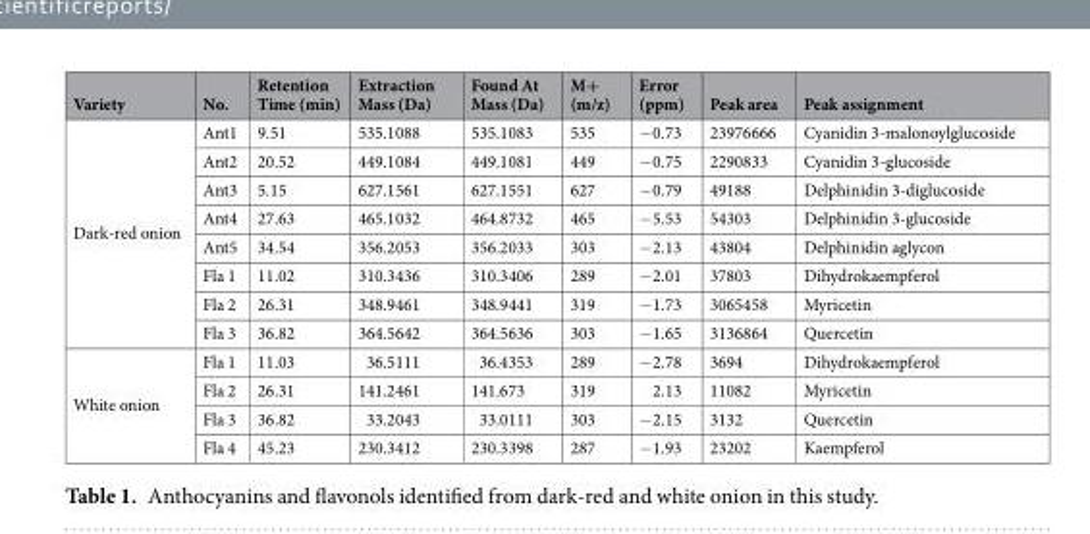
<table><thead><tr><td>Variety</td><td>No.</td><td>Retention Time (min)</td><td>Extraction Mass (Da)</td><td>Found At Mass (Da)</td><td>M+ (m/z)</td><td>Error (ppm)</td><td>Peak area</td><td>Peak assignment</td></tr></thead><tbody><tr><td rowspan="8">Dark-red onion</td><td>Ant1</td><td>9.51</td><td>535.1088</td><td>535.1083</td><td>535</td><td>−0.73</td><td>23976666</td><td>Cyanidin 3-malonoylglucoside</td></tr><tr><td>Ant2</td><td>20.52</td><td>449.1084</td><td>449.1081</td><td>449</td><td>−0.75</td><td>2290833</td><td>Cyanidin 3-glucoside</td></tr><tr><td>Ant3</td><td>5.15</td><td>627.1561</td><td>627.1551</td><td>627</td><td>−0.79</td><td>49188</td><td>Delphinidin 3-diglucoside</td></tr><tr><td>Ant4</td><td>27.63</td><td>465.1032</td><td>464.8732</td><td>465</td><td>−5.53</td><td>54303</td><td>Delphinidin 3-glucoside</td></tr><tr><td>Ant5</td><td>34.54</td><td>356.2053</td><td>356.2033</td><td>303</td><td>−2.13</td><td>43804</td><td>Delphinidin aglycon</td></tr><tr><td>Fla 1</td><td>11.02</td><td>310.3436</td><td>310.3406</td><td>289</td><td>−2.01</td><td>37803</td><td>Dihydrokaempferol</td></tr><tr><td>Fla 2</td><td>26.31</td><td>348.9461</td><td>348.9441</td><td>319</td><td>−1.73</td><td>3065458</td><td>Myricetin</td></tr><tr><td>Fla 3</td><td>36.82</td><td>364.5642</td><td>364.5636</td><td>303</td><td>−1.65</td><td>3136864</td><td>Quercetin</td></tr><tr><td rowspan="4">White onion</td><td>Fla 1</td><td>11.03</td><td>36.5111</td><td>36.4353</td><td>289</td><td>−2.78</td><td>3694</td><td>Dihydrokaempferol</td></tr><tr><td>Fla 2</td><td>26.31</td><td>141.2461</td><td>141.673</td><td>319</td><td>2.13</td><td>11082</td><td>Myricetin</td></tr><tr><td>Fla 3</td><td>36.82</td><td>33.2043</td><td>33.0111</td><td>303</td><td>−2.15</td><td>3132</td><td>Quercetin</td></tr><tr><td>Fla 4</td><td>45.23</td><td>230.3412</td><td>230.3398</td><td>287</td><td>−1.93</td><td>23202</td><td>Kaempferol</td></tr></tbody></table>